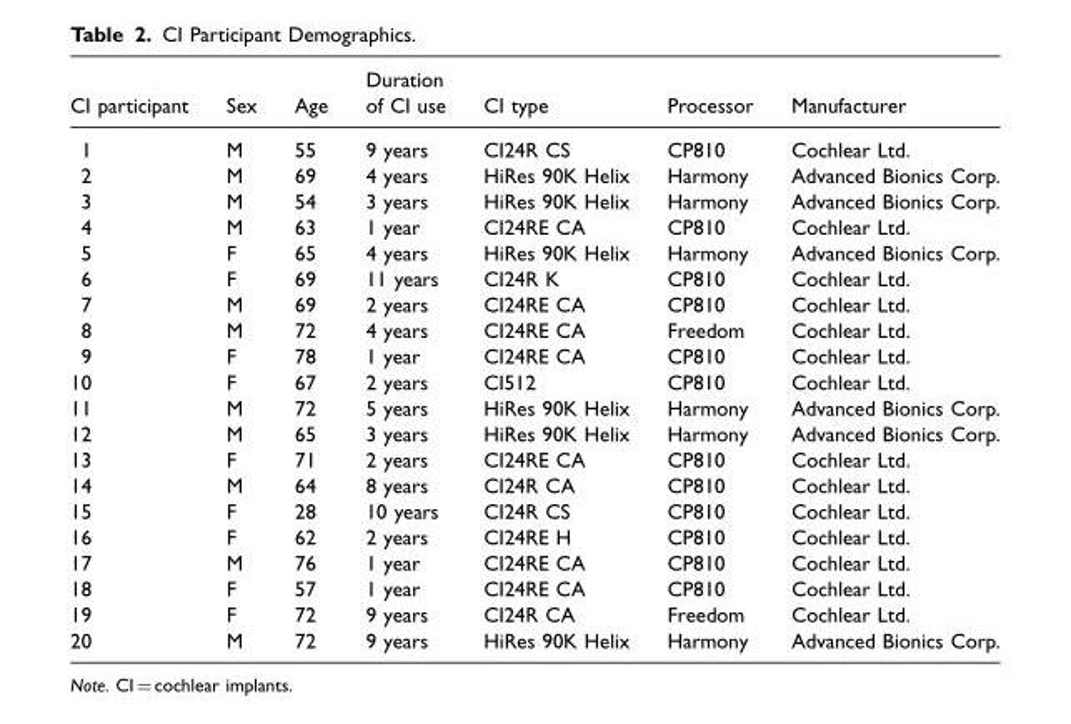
<table><thead><tr><td>CI participant</td><td>Sex</td><td>Age</td><td>Duration of CI use</td><td>CI type</td><td>Processor</td><td>Manufacturer</td></tr></thead><tbody><tr><td>1</td><td>M</td><td>55</td><td>9 years</td><td>CI24R CS</td><td>CP810</td><td>Cochlear Ltd.</td></tr><tr><td>2</td><td>M</td><td>69</td><td>4 years</td><td>HiRes 90K Helix</td><td>Harmony</td><td>Advanced Bionics Corp.</td></tr><tr><td>3</td><td>M</td><td>54</td><td>3 years</td><td>HiRes 90K Helix</td><td>Harmony</td><td>Advanced Bionics Corp.</td></tr><tr><td>4</td><td>M</td><td>63</td><td>1 year</td><td>CI24RE CA</td><td>CP810</td><td>Cochlear Ltd.</td></tr><tr><td>5</td><td>F</td><td>65</td><td>4 years</td><td>HiRes 90K Helix</td><td>Harmony</td><td>Advanced Bionics Corp.</td></tr><tr><td>6</td><td>F</td><td>69</td><td>11 years</td><td>CI24R K</td><td>CP810</td><td>Cochlear Ltd.</td></tr><tr><td>7</td><td>M</td><td>69</td><td>2 years</td><td>CI24RE CA</td><td>CP810</td><td>Cochlear Ltd.</td></tr><tr><td>8</td><td>M</td><td>72</td><td>4 years</td><td>CI24RE CA</td><td>Freedom</td><td>Cochlear Ltd.</td></tr><tr><td>9</td><td>F</td><td>78</td><td>1 year</td><td>CI24RE CA</td><td>CP810</td><td>Cochlear Ltd.</td></tr><tr><td>10</td><td>F</td><td>67</td><td>2 years</td><td>CI512</td><td>CP810</td><td>Cochlear Ltd.</td></tr><tr><td>11</td><td>M</td><td>72</td><td>5 years</td><td>HiRes 90K Helix</td><td>Harmony</td><td>Advanced Bionics Corp.</td></tr><tr><td>12</td><td>M</td><td>65</td><td>3 years</td><td>HiRes 90K Helix</td><td>Harmony</td><td>Advanced Bionics Corp.</td></tr><tr><td>13</td><td>F</td><td>71</td><td>2 years</td><td>CI24RE CA</td><td>CP810</td><td>Cochlear Ltd.</td></tr><tr><td>14</td><td>M</td><td>64</td><td>8 years</td><td>CI24R CA</td><td>CP810</td><td>Cochlear Ltd.</td></tr><tr><td>15</td><td>F</td><td>28</td><td>10 years</td><td>CI24R CS</td><td>CP810</td><td>Cochlear Ltd.</td></tr><tr><td>16</td><td>F</td><td>62</td><td>2 years</td><td>CI24RE H</td><td>CP810</td><td>Cochlear Ltd.</td></tr><tr><td>17</td><td>M</td><td>76</td><td>1 year</td><td>CI24RE CA</td><td>CP810</td><td>Cochlear Ltd.</td></tr><tr><td>18</td><td>F</td><td>57</td><td>1 year</td><td>CI24RE CA</td><td>CP810</td><td>Cochlear Ltd.</td></tr><tr><td>19</td><td>F</td><td>72</td><td>9 years</td><td>CI24R CA</td><td>Freedom</td><td>Cochlear Ltd.</td></tr><tr><td>20</td><td>M</td><td>72</td><td>9 years</td><td>HiRes 90K Helix</td><td>Harmony</td><td>Advanced Bionics Corp.</td></tr></tbody></table>